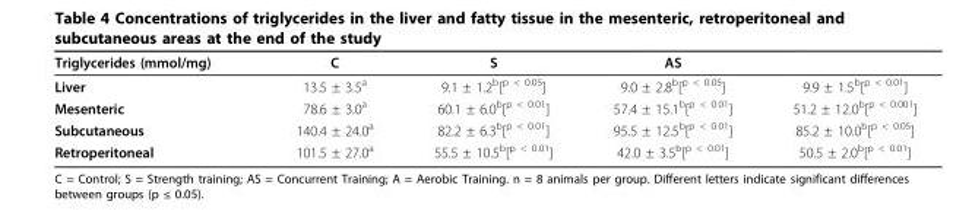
<table><thead><tr><td>Triglycerides (mmol/mg)</td><td>C</td><td>S</td><td>AS</td><td></td></tr></thead><tbody><tr><td>Liver</td><td>13.5 ± 3.5<sup>a</sup></td><td>9.1 ± 1.2<sup>b</sup>[<sup>p &lt; 0.05</sup>]</td><td>9.0 ± 2.8<sup>b</sup>[<sup>p &lt; 0.05</sup>]</td><td>9.9 ± 1.5<sup>b</sup>[<sup>p &lt; 0.01</sup>]</td></tr><tr><td>Mesenteric</td><td>78.6 ± 3.0<sup>a</sup></td><td>60.1 ± 6.0<sup>b</sup>[<sup>p &lt; 0.01</sup>]</td><td>57.4 ± 15.1<sup>b</sup>[<sup>p &lt; 0.01</sup>]</td><td>51.2 ± 12.0<sup>b</sup>[<sup>p &lt; 0.001</sup>]</td></tr><tr><td>Subcutaneous</td><td>140.4 ± 24.0<sup>a</sup></td><td>82.2 ± 6.3<sup>b</sup>[<sup>p &lt; 0.01</sup>]</td><td>95.5 ± 12.5<sup>b</sup>[<sup>p &lt; 0.01</sup>]</td><td>85.2 ± 10.0<sup>b</sup>[<sup>p &lt; 0.05</sup>]</td></tr><tr><td>Retroperitoneal</td><td>101.5 ± 27.0<sup>a</sup></td><td>55.5 ± 10.5<sup>b</sup>[<sup>p &lt; 0.01</sup>]</td><td>42.0 ± 3.5<sup>b</sup>[<sup>p &lt; 0.01</sup>]</td><td>50.5 ± 2.0<sup>b</sup>[<sup>p &lt; 0.01</sup>]</td></tr></tbody></table>